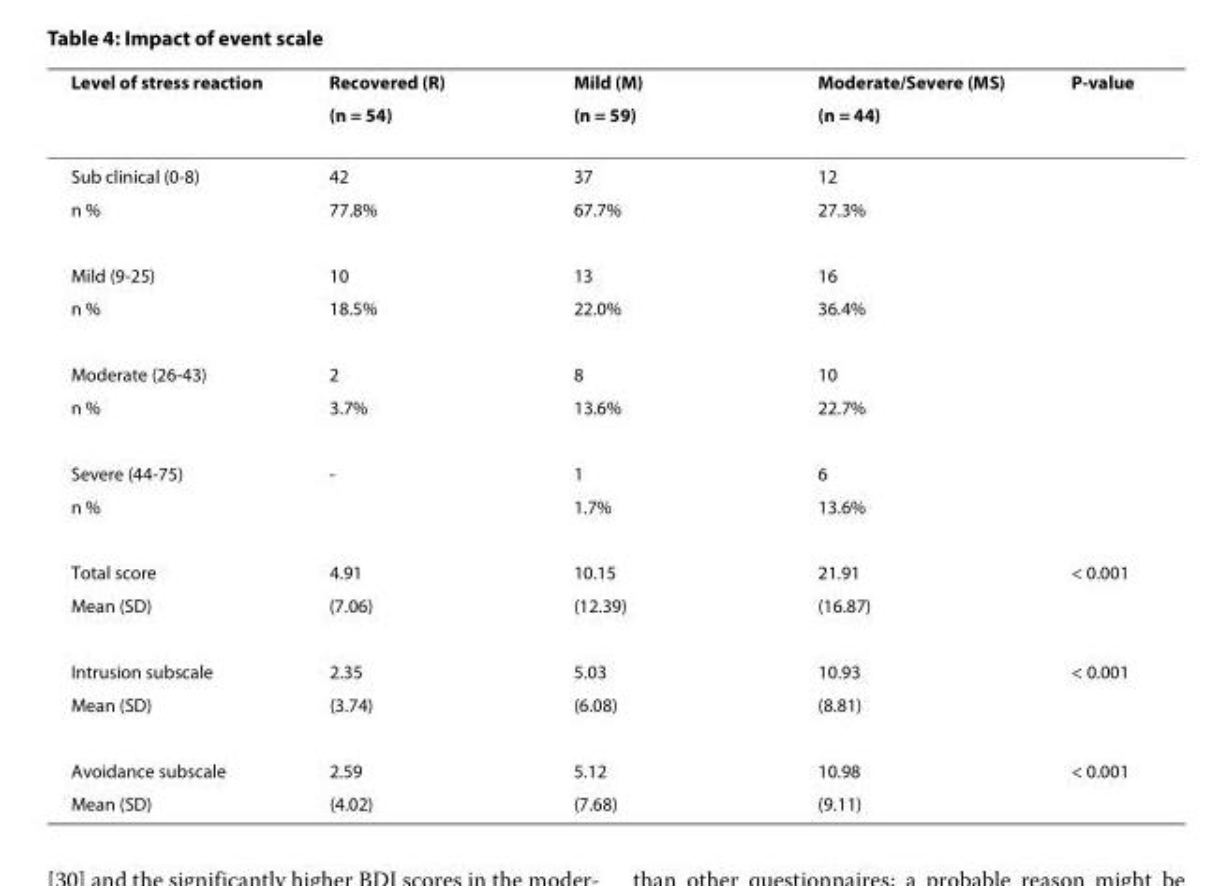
<table><thead><tr><td rowspan="2">Level of stress reaction</td><td rowspan="2">Recovered (R) (n = 54)</td><td rowspan="2">Mild (M) (n = 59)</td><td rowspan="2">Moderate/Severe (MS) (n = 44)</td><td rowspan="2">P-value</td></tr><tr></tr></thead><tbody><tr><td>Sub clinical (0-8)</td><td>42</td><td>37</td><td>12</td><td></td></tr><tr><td>n %</td><td>77.8%</td><td>67.7%</td><td>27.3%</td><td></td></tr><tr><td>Mild (9-25)</td><td>10</td><td>13</td><td>16</td><td></td></tr><tr><td>n %</td><td>18.5%</td><td>22.0%</td><td>36.4%</td><td></td></tr><tr><td>Moderate (26-43)</td><td>2</td><td>8</td><td>10</td><td></td></tr><tr><td>n %</td><td>3.7%</td><td>13.6%</td><td>22.7%</td><td></td></tr><tr><td>Severe (44-75)</td><td>-</td><td>1</td><td>6</td><td></td></tr><tr><td>n %</td><td></td><td>1.7%</td><td>13.6%</td><td></td></tr><tr><td>Total score</td><td>4.91</td><td>10.15</td><td>21.91</td><td>&lt; 0.001</td></tr><tr><td>Mean (SD)</td><td>(7.06)</td><td>(12.39)</td><td>(16.87)</td><td></td></tr><tr><td>Intrusion subscale</td><td>2.35</td><td>5.03</td><td>10.93</td><td>&lt; 0.001</td></tr><tr><td>Mean (SD)</td><td>(3.74)</td><td>(6.08)</td><td>(8.81)</td><td></td></tr><tr><td>Avoidance subscale</td><td>2.59</td><td>5.12</td><td>10.98</td><td>&lt; 0.001</td></tr><tr><td>Mean (SD)</td><td>(4.02)</td><td>(7.68)</td><td>(9.11)</td><td></td></tr></tbody></table>